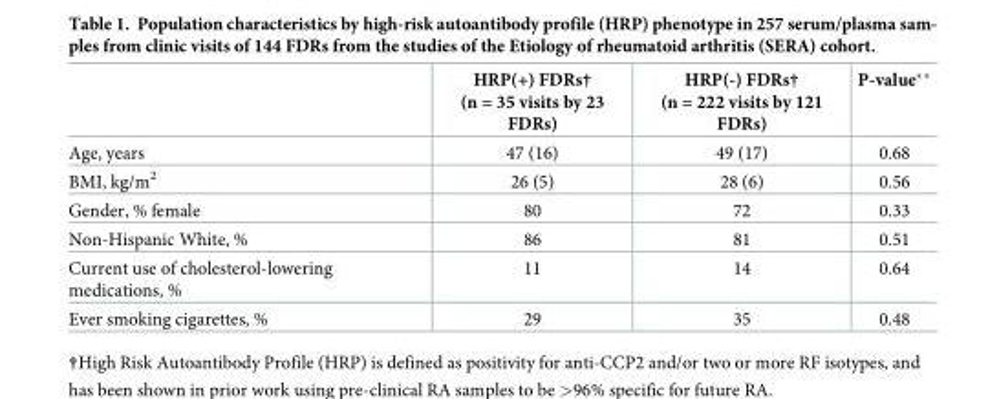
<table><thead><tr><td></td><td>HRP(+) FDRs† (n = 35 visits by 23 FDRs)</td><td>HRP(-) FDRs† (n = 222 visits by 121 FDRs)</td><td>P-value**</td></tr></thead><tbody><tr><td>Age, years</td><td>47 (16)</td><td>49 (17)</td><td>0.68</td></tr><tr><td>BMI, kg/m<sup>2</sup></td><td>26 (5)</td><td>28 (6)</td><td>0.56</td></tr><tr><td>Gender, % female</td><td>80</td><td>72</td><td>0.33</td></tr><tr><td>Non-Hispanic White, %</td><td>86</td><td>81</td><td>0.51</td></tr><tr><td>Current use of cholesterol-lowering medications, %</td><td>11</td><td>14</td><td>0.64</td></tr><tr><td>Ever smoking cigarettes, %</td><td>29</td><td>35</td><td>0.48</td></tr></tbody></table>